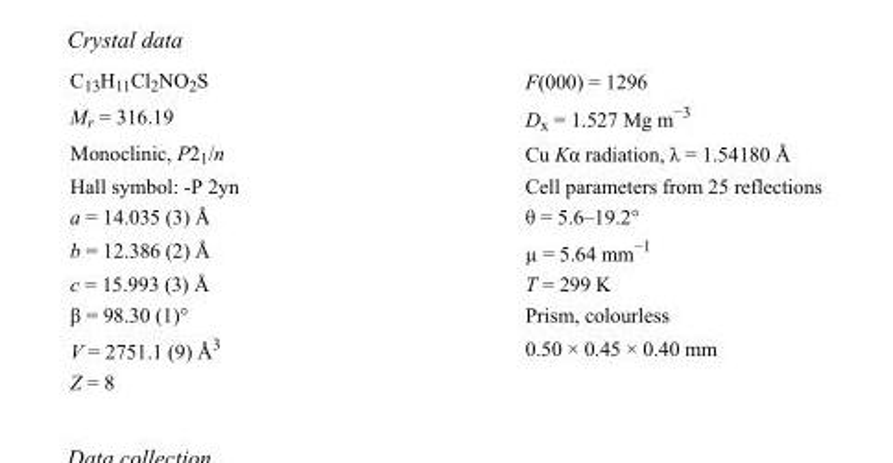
<table><tbody><tr><td>C<sub>13</sub>H<sub>11</sub>Cl<sub>2</sub>NO<sub>2</sub>S</td><td>F(000) = 1296</td></tr><tr><td>M<sub>r</sub> = 316.19</td><td>D<sub>x</sub> = 1.527 Mg m<sup>−3</sup></td></tr><tr><td>Monoclinic, P2<sub>1</sub>/n</td><td>Cu Kα radiation, λ = 1.54180 Å</td></tr><tr><td>Hall symbol: -P 2yn</td><td>Cell parameters from 25 reflections</td></tr><tr><td>a = 14.035 (3) Å</td><td>θ = 5.6–19.2°</td></tr><tr><td>b = 12.386 (2) Å</td><td>µ = 5.64 mm<sup>−1</sup></td></tr><tr><td>c = 15.993 (3) Å</td><td>T = 299 K</td></tr><tr><td>β = 98.30 (1)°</td><td>Prism, colourless</td></tr><tr><td>V = 2751.1 (9) Å<sup>3</sup></td><td>0.50 × 0.45 × 0.40 mm</td></tr><tr><td>Z = 8</td><td></td></tr></tbody></table>